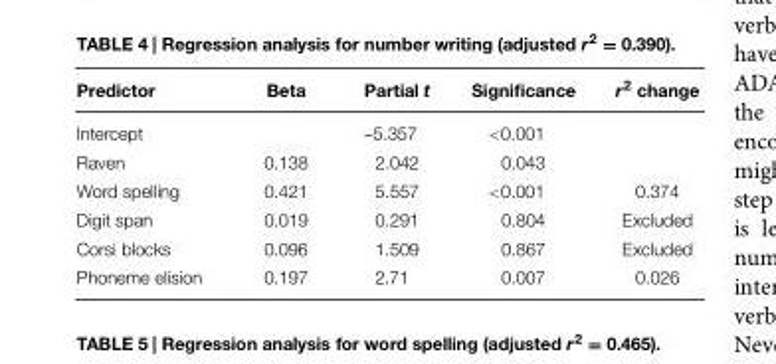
<table><thead><tr><td>Predictor</td><td>Beta</td><td>Partial t</td><td>Significance</td><td>r<sup>2</sup> change</td></tr></thead><tbody><tr><td>Intercept</td><td></td><td>–5.357</td><td>&lt;0.001</td><td></td></tr><tr><td>Raven</td><td>0.138</td><td>2.042</td><td>0.043</td><td></td></tr><tr><td>Word spelling</td><td>0.421</td><td>5.557</td><td>&lt;0.001</td><td>0.374</td></tr><tr><td>Digit span</td><td>0.019</td><td>0.291</td><td>0.804</td><td>Excluded</td></tr><tr><td>Corsi blocks</td><td>0.096</td><td>1.509</td><td>0.867</td><td>Excluded</td></tr><tr><td>Phoneme elision</td><td>0.197</td><td>2.71</td><td>0.007</td><td>0.026</td></tr></tbody></table>